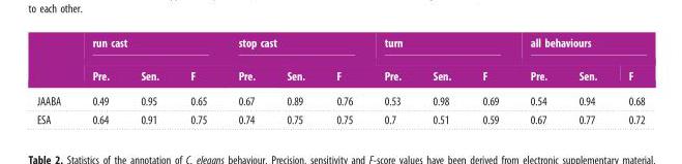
<table><thead><tr><td rowspan="2"></td><td colspan="3">run cast</td><td colspan="3">stop cast</td><td colspan="3">turn</td><td colspan="3">all behaviours</td></tr><tr><td>Pre.</td><td>Sen.</td><td>F</td><td>Pre.</td><td>Sen.</td><td>F</td><td>Pre.</td><td>Sen.</td><td>F</td><td>Pre.</td><td>Sen.</td><td>F</td></tr></thead><tbody><tr><td>JAABA</td><td>0.49</td><td>0.95</td><td>0.65</td><td>0.67</td><td>0.89</td><td>0.76</td><td>0.53</td><td>0.98</td><td>0.69</td><td>0.54</td><td>0.94</td><td>0.68</td></tr><tr><td>ESA</td><td>0.64</td><td>0.91</td><td>0.75</td><td>0.74</td><td>0.75</td><td>0.75</td><td>0.7</td><td>0.51</td><td>0.59</td><td>0.67</td><td>0.77</td><td>0.72</td></tr></tbody></table>